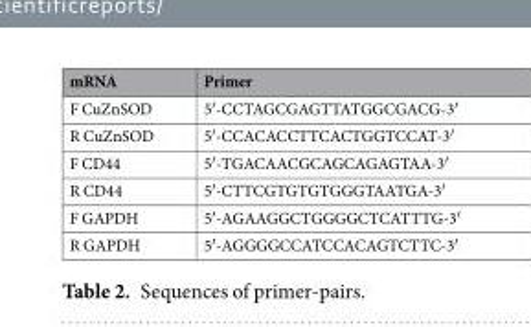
<table><thead><tr><td>mRNA</td><td>Primer</td></tr></thead><tbody><tr><td>F CuZnSOD</td><td>5′-CCTAGCGAGTTATGGCGACG-3′</td></tr><tr><td>R CuZnSOD</td><td>5′-CCACACCTTCACTGGTCCAT-3′</td></tr><tr><td>F CD44</td><td>5′-TGACAACGCAGCAGAGTAA-3′</td></tr><tr><td>R CD44</td><td>5′-CTTCGTGTGTGGGTAATGA-3′</td></tr><tr><td>F GAPDH</td><td>5′-AGAAGGCTGGGGCTCATTTG-3′</td></tr><tr><td>R GAPDH</td><td>5′-AGGGGCCATCCACAGTCTTC-3′</td></tr></tbody></table>